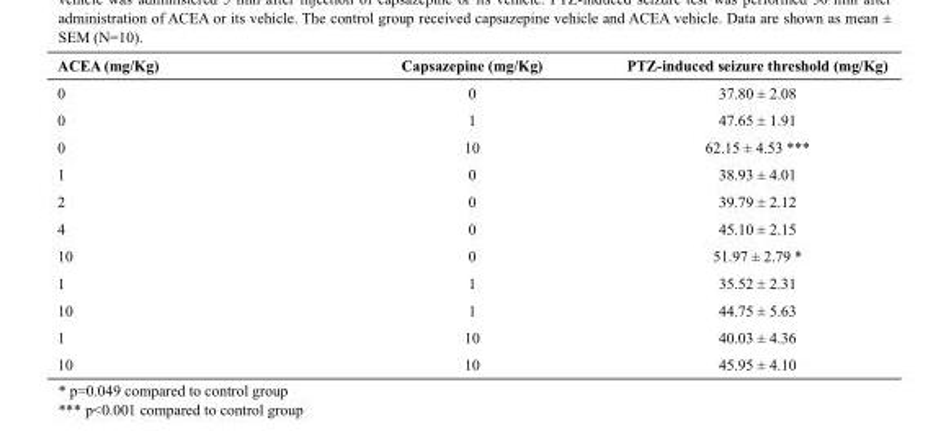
<table><thead><tr><td>ACEA (mg/Kg)</td><td>Capsazepine (mg/Kg)</td><td>PTZ-induced seizure threshold (mg/Kg)</td></tr></thead><tbody><tr><td>0</td><td>0</td><td>37.80 ± 2.08</td></tr><tr><td>0</td><td>1</td><td>47.65 ± 1.91</td></tr><tr><td>0</td><td>10</td><td>62.15 ± 4.53 ***</td></tr><tr><td>1</td><td>0</td><td>38.93 ± 4.01</td></tr><tr><td>2</td><td>0</td><td>39.79 ± 2.12</td></tr><tr><td>4</td><td>0</td><td>45.10 ± 2.15</td></tr><tr><td>10</td><td>0</td><td>51.97 ± 2.79 *</td></tr><tr><td>1</td><td>1</td><td>35.52 ± 2.31</td></tr><tr><td>10</td><td>1</td><td>44.75 ± 5.63</td></tr><tr><td>1</td><td>10</td><td>40.03 ± 4.36</td></tr><tr><td>10</td><td>10</td><td>45.95 ± 4.10</td></tr></tbody></table>